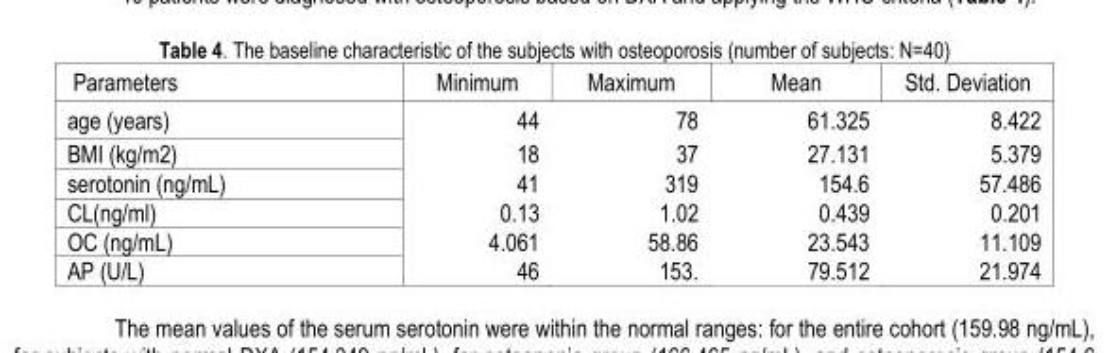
<table><tbody><tr><td>Parameters</td><td>Minimum</td><td>Maximum</td><td>Mean</td><td>Std. Deviation</td></tr><tr><td>age (years)</td><td>44</td><td>78</td><td>61.325</td><td>8.422</td></tr><tr><td>BMI (kg/m2)</td><td>18</td><td>37</td><td>27.131</td><td>5.379</td></tr><tr><td>serotonin (ng/mL)</td><td>41</td><td>319</td><td>154.6</td><td>57.486</td></tr><tr><td>CL(ng/ml)</td><td>0.13</td><td>1.02</td><td>0.439</td><td>0.201</td></tr><tr><td>OC (ng/mL)</td><td>4.061</td><td>58.86</td><td>23.543</td><td>11.109</td></tr><tr><td>AP (U/L)</td><td>46</td><td>153.</td><td>79.512</td><td>21.974</td></tr></tbody></table>